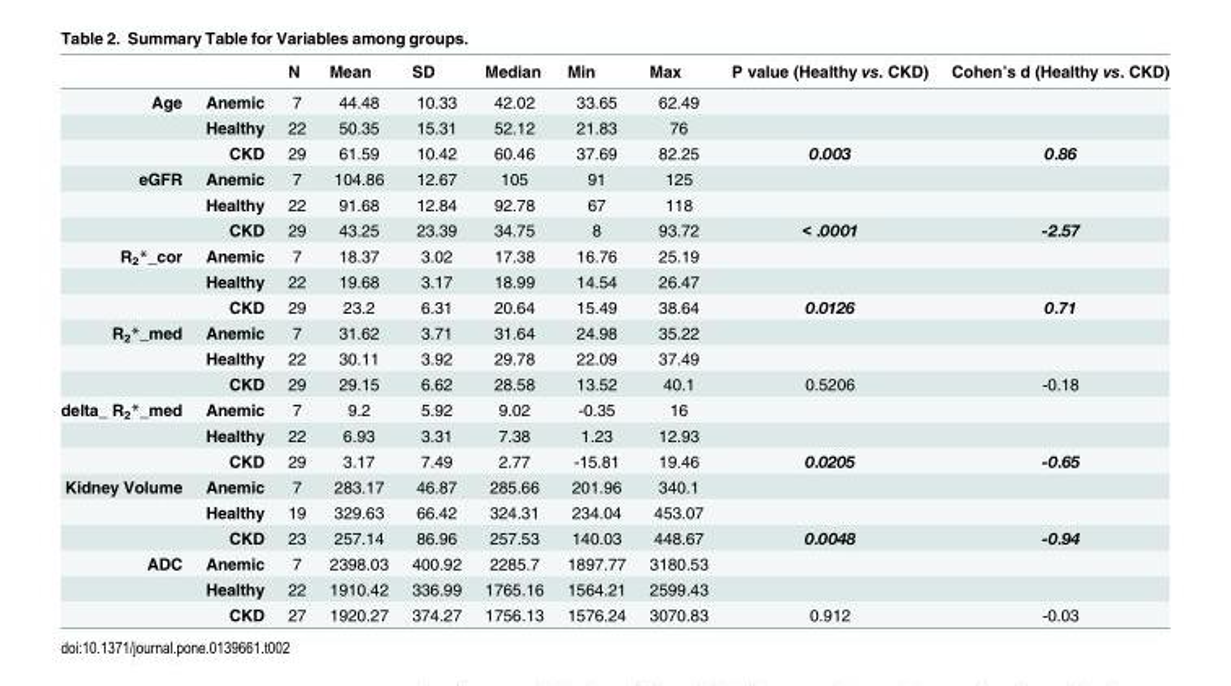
<table><thead><tr><td></td><td></td><td>N</td><td>Mean</td><td>SD</td><td>Median</td><td>Min</td><td>Max</td><td>P value (Healthy vs. CKD)</td><td>Cohen’s d (Healthy vs. CKD)</td></tr></thead><tbody><tr><td rowspan="3">Age</td><td>Anemic</td><td>7</td><td>44.48</td><td>10.33</td><td>42.02</td><td>33.65</td><td>62.49</td><td></td><td></td></tr><tr><td>Healthy</td><td>22</td><td>50.35</td><td>15.31</td><td>52.12</td><td>21.83</td><td>76</td><td></td><td></td></tr><tr><td>CKD</td><td>29</td><td>61.59</td><td>10.42</td><td>60.46</td><td>37.69</td><td>82.25</td><td>0.003</td><td>0.86</td></tr><tr><td rowspan="3">eGFR</td><td>Anemic</td><td>7</td><td>104.86</td><td>12.67</td><td>105</td><td>91</td><td>125</td><td></td><td></td></tr><tr><td>Healthy</td><td>22</td><td>91.68</td><td>12.84</td><td>92.78</td><td>67</td><td>118</td><td></td><td></td></tr><tr><td>CKD</td><td>29</td><td>43.25</td><td>23.39</td><td>34.75</td><td>8</td><td>93.72</td><td>&lt; .0001</td><td>-2.57</td></tr><tr><td rowspan="3">R<sub>2</sub>*_cor</td><td>Anemic</td><td>7</td><td>18.37</td><td>3.02</td><td>17.38</td><td>16.76</td><td>25.19</td><td></td><td></td></tr><tr><td>Healthy</td><td>22</td><td>19.68</td><td>3.17</td><td>18.99</td><td>14.54</td><td>26.47</td><td></td><td></td></tr><tr><td>CKD</td><td>29</td><td>23.2</td><td>6.31</td><td>20.64</td><td>15.49</td><td>38.64</td><td>0.0126</td><td>0.71</td></tr><tr><td rowspan="3">R<sub>2</sub>*_med</td><td>Anemic</td><td>7</td><td>31.62</td><td>3.71</td><td>31.64</td><td>24.98</td><td>35.22</td><td></td><td></td></tr><tr><td>Healthy</td><td>22</td><td>30.11</td><td>3.92</td><td>29.78</td><td>22.09</td><td>37.49</td><td></td><td></td></tr><tr><td>CKD</td><td>29</td><td>29.15</td><td>6.62</td><td>28.58</td><td>13.52</td><td>40.1</td><td>0.5206</td><td>-0.18</td></tr><tr><td rowspan="3">delta_ R<sub>2</sub>*_med</td><td>Anemic</td><td>7</td><td>9.2</td><td>5.92</td><td>9.02</td><td>-0.35</td><td>16</td><td></td><td></td></tr><tr><td>Healthy</td><td>22</td><td>6.93</td><td>3.31</td><td>7.38</td><td>1.23</td><td>12.93</td><td></td><td></td></tr><tr><td>CKD</td><td>29</td><td>3.17</td><td>7.49</td><td>2.77</td><td>-15.81</td><td>19.46</td><td>0.0205</td><td>-0.65</td></tr><tr><td rowspan="3">Kidney Volume</td><td>Anemic</td><td>7</td><td>283.17</td><td>46.87</td><td>285.66</td><td>201.96</td><td>340.1</td><td></td><td></td></tr><tr><td>Healthy</td><td>19</td><td>329.63</td><td>66.42</td><td>324.31</td><td>234.04</td><td>453.07</td><td></td><td></td></tr><tr><td>CKD</td><td>23</td><td>257.14</td><td>86.96</td><td>257.53</td><td>140.03</td><td>448.67</td><td>0.0048</td><td>-0.94</td></tr><tr><td rowspan="3">ADC</td><td>Anemic</td><td>7</td><td>2398.03</td><td>400.92</td><td>2285.7</td><td>1897.77</td><td>3180.53</td><td></td><td></td></tr><tr><td>Healthy</td><td>22</td><td>1910.42</td><td>336.99</td><td>1765.16</td><td>1564.21</td><td>2599.43</td><td></td><td></td></tr><tr><td>CKD</td><td>27</td><td>1920.27</td><td>374.27</td><td>1756.13</td><td>1576.24</td><td>3070.83</td><td>0.912</td><td>-0.03</td></tr></tbody></table>